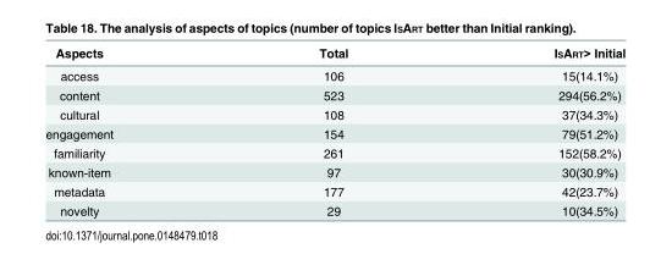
<table><thead><tr><td>Aspects</td><td>Total</td><td>ISART&gt; Initial</td></tr></thead><tbody><tr><td>access</td><td>106</td><td>15(14.1%)</td></tr><tr><td>content</td><td>523</td><td>294(56.2%)</td></tr><tr><td>cultural</td><td>108</td><td>37(34.3%)</td></tr><tr><td>engagement</td><td>154</td><td>79(51.2%)</td></tr><tr><td>familiarity</td><td>261</td><td>152(58.2%)</td></tr><tr><td>known-item</td><td>97</td><td>30(30.9%)</td></tr><tr><td>metadata</td><td>177</td><td>42(23.7%)</td></tr><tr><td>novelty</td><td>29</td><td>10(34.5%)</td></tr></tbody></table>